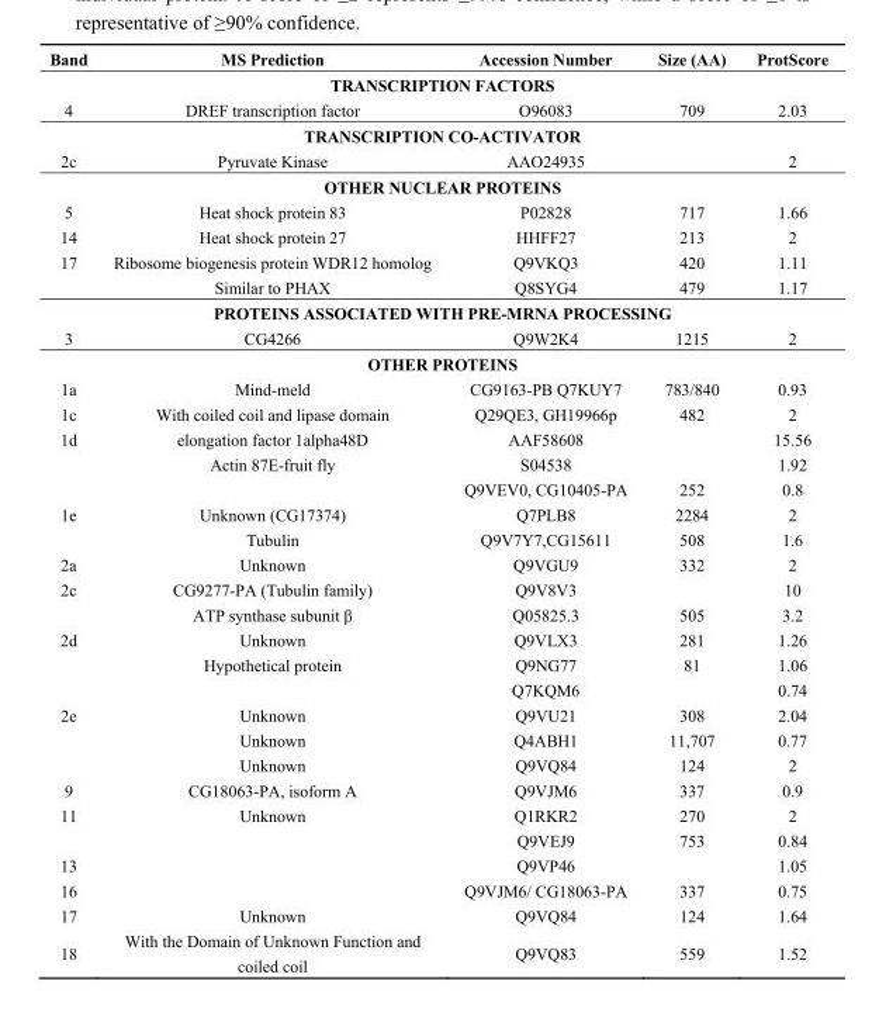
<table><thead><tr><td>Band</td><td>MS Prediction</td><td>Accession Number</td><td>Size (AA)</td><td>ProtScore</td></tr></thead><tbody><tr><td colspan="5">TRANSCRIPTION FACTORS</td></tr><tr><td>4</td><td>DREF transcription factor</td><td>O96083</td><td>709</td><td>2.03</td></tr><tr><td colspan="5">TRANSCRIPTION CO-ACTIVATOR</td></tr><tr><td>2c</td><td>Pyruvate Kinase</td><td>AAO24935</td><td></td><td>2</td></tr><tr><td colspan="5">OTHER NUCLEAR PROTEINS</td></tr><tr><td>5</td><td>Heat shock protein 83</td><td>P02828</td><td>717</td><td>1.66</td></tr><tr><td>14</td><td>Heat shock protein 27</td><td>HHFF27</td><td>213</td><td>2</td></tr><tr><td rowspan="2">17</td><td>Ribosome biogenesis protein WDR12 homolog</td><td>Q9VKQ3</td><td>420</td><td>1.11</td></tr><tr><td>Similar to PHAX</td><td>Q8SYG4</td><td>479</td><td>1.17</td></tr><tr><td colspan="5">PROTEINS ASSOCIATED WITH PRE-MRNA PROCESSING</td></tr><tr><td>3</td><td>CG4266</td><td>Q9W2K4</td><td>1215</td><td>2</td></tr><tr><td colspan="5">OTHER PROTEINS</td></tr><tr><td>1a</td><td>Mind-meld</td><td>CG9163-PB Q7KUY7</td><td>783/840</td><td>0.93</td></tr><tr><td>1c</td><td>With coiled coil and lipase domain</td><td>Q29QE3, GH19966p</td><td>482</td><td>2</td></tr><tr><td rowspan="3">1d</td><td>elongation factor 1alpha48D</td><td>AAF58608</td><td></td><td>15.56</td></tr><tr><td>Actin 87E-fruit fly</td><td>S04538</td><td></td><td>1.92</td></tr><tr><td></td><td>Q9VEV0, CG10405-PA</td><td>252</td><td>0.8</td></tr><tr><td rowspan="2">1e</td><td>Unknown (CG17374)</td><td>Q7PLB8</td><td>2284</td><td>2</td></tr><tr><td>Tubulin</td><td>Q9V7Y7,CG15611</td><td>508</td><td>1.6</td></tr><tr><td>2a</td><td>Unknown</td><td>Q9VGU9</td><td>332</td><td>2</td></tr><tr><td rowspan="2">2c</td><td>CG9277-PA (Tubulin family)</td><td>Q9V8V3</td><td></td><td>10</td></tr><tr><td>ATP synthase subunit β</td><td>Q05825.3</td><td>505</td><td>3.2</td></tr><tr><td rowspan="3">2d</td><td>Unknown</td><td>Q9VLX3</td><td>281</td><td>1.26</td></tr><tr><td>Hypothetical protein</td><td>Q9NG77</td><td>81</td><td>1.06</td></tr><tr><td></td><td>Q7KQM6</td><td></td><td>0.74</td></tr><tr><td rowspan="3">2e</td><td>Unknown</td><td>Q9VU21</td><td>308</td><td>2.04</td></tr><tr><td>Unknown</td><td>Q4ABH1</td><td>11,707</td><td>0.77</td></tr><tr><td>Unknown</td><td>Q9VQ84</td><td>124</td><td>2</td></tr><tr><td>9</td><td>CG18063-PA, isoform A</td><td>Q9VJM6</td><td>337</td><td>0.9</td></tr><tr><td rowspan="2">11</td><td>Unknown</td><td>Q1RKR2</td><td>270</td><td>2</td></tr><tr><td></td><td>Q9VEJ9</td><td>753</td><td>0.84</td></tr><tr><td>13</td><td></td><td>Q9VP46</td><td></td><td>1.05</td></tr><tr><td>16</td><td></td><td>Q9VJM6/ CG18063-PA</td><td>337</td><td>0.75</td></tr><tr><td>17</td><td>Unknown</td><td>Q9VQ84</td><td>124</td><td>1.64</td></tr><tr><td>18</td><td>With the Domain of Unknown Function and coiled coil</td><td>Q9VQ83</td><td>559</td><td>1.52</td></tr></tbody></table>